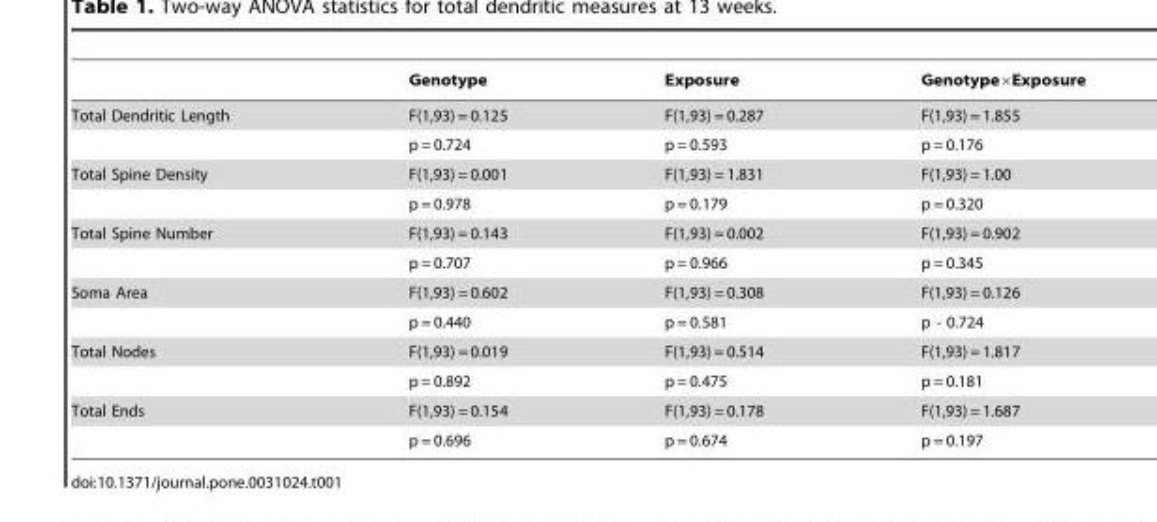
<table><thead><tr><td></td><td>Genotype</td><td>Exposure</td><td>Genotype×Exposure</td></tr></thead><tbody><tr><td rowspan="2">Total Dendritic Length</td><td>F(1,93) = 0.125</td><td>F(1,93) = 0.287</td><td>F(1,93) = 1.855</td></tr><tr><td>p = 0.724</td><td>p = 0.593</td><td>p = 0.176</td></tr><tr><td rowspan="2">Total Spine Density</td><td>F(1,93) = 0.001</td><td>F(1,93) = 1.831</td><td>F(1,93) = 1.00</td></tr><tr><td>p = 0.978</td><td>p = 0.179</td><td>p = 0.320</td></tr><tr><td rowspan="2">Total Spine Number</td><td>F(1,93) = 0.143</td><td>F(1,93) = 0.002</td><td>F(1,93) = 0.902</td></tr><tr><td>p = 0.707</td><td>p = 0.966</td><td>p = 0.345</td></tr><tr><td rowspan="2">Soma Area</td><td>F(1,93) = 0.602</td><td>F(1,93) = 0.308</td><td>F(1,93) = 0.126</td></tr><tr><td>p = 0.440</td><td>p = 0.581</td><td>p - 0.724</td></tr><tr><td rowspan="2">Total Nodes</td><td>F(1,93) = 0.019</td><td>F(1,93) = 0.514</td><td>F(1,93) = 1.817</td></tr><tr><td>p = 0.892</td><td>p = 0.475</td><td>p = 0.181</td></tr><tr><td rowspan="2">Total Ends</td><td>F(1,93) = 0.154</td><td>F(1,93) = 0.178</td><td>F(1,93) = 1.687</td></tr><tr><td>p = 0.696</td><td>p = 0.674</td><td>p = 0.197</td></tr></tbody></table>